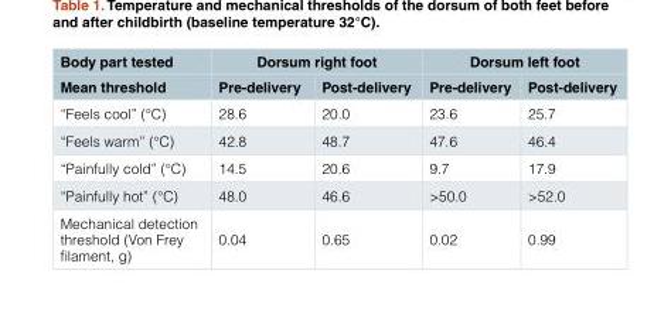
<table><thead><tr><td rowspan="2">Body part tested Mean threshold</td><td colspan="2">Dorsum right foot</td><td colspan="2">Dorsum left foot</td></tr><tr><td>Pre-delivery</td><td>Post-delivery</td><td>Pre-delivery</td><td>Post-delivery</td></tr></thead><tbody><tr><td>“Feels cool” (°C)</td><td>28.6</td><td>20.0</td><td>23.6</td><td>25.7</td></tr><tr><td>“Feels warm” (°C)</td><td>42.8</td><td>48.7</td><td>47.6</td><td>46.4</td></tr><tr><td>“Painfully cold” (°C)</td><td>14.5</td><td>20.6</td><td>9.7</td><td>17.9</td></tr><tr><td>“Painfully hot” (°C)</td><td>48.0</td><td>46.6</td><td>&gt;50.0</td><td>&gt;52.0</td></tr><tr><td>Mechanical detection threshold (Von Frey filament, g)</td><td>0.04</td><td>0.65</td><td>0.02</td><td>0.99</td></tr></tbody></table>